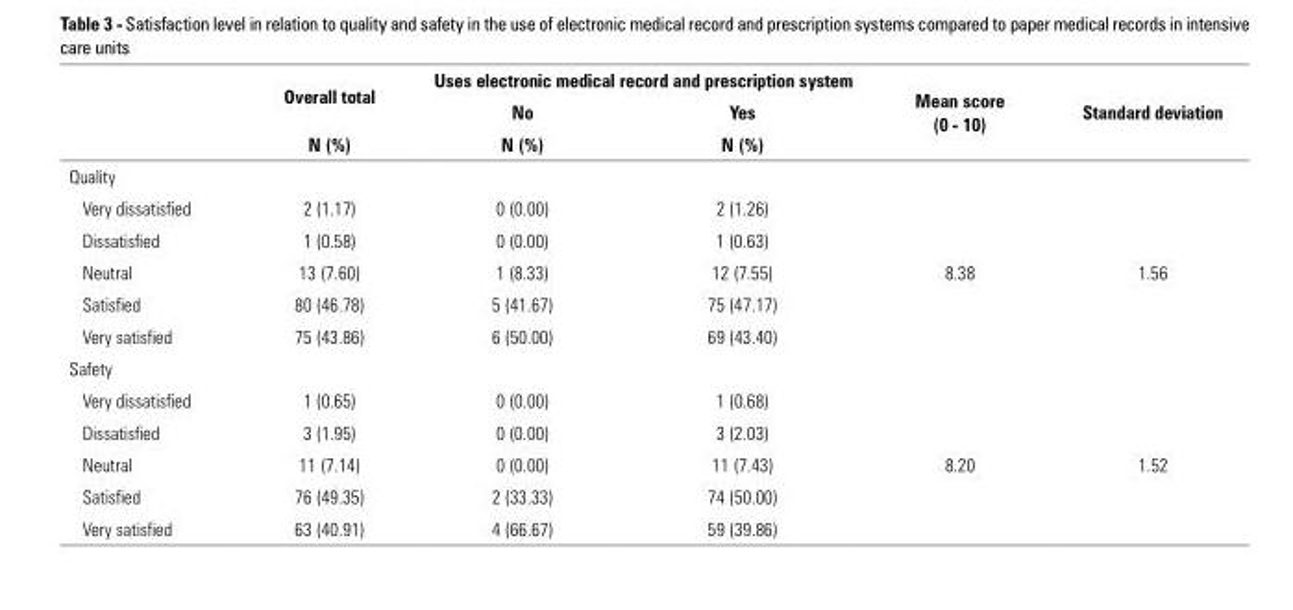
<table><thead><tr><td rowspan="3"></td><td rowspan="3">Overall total N (%)</td><td colspan="2">Uses electronic medical record and prescription system</td><td rowspan="3">Mean score (0 - 10)</td><td rowspan="3">Standard deviation</td></tr><tr><td rowspan="2">No N (%)</td><td rowspan="2">Yes N (%)</td></tr><tr></tr></thead><tbody><tr><td colspan="6">Quality</td></tr><tr><td>Very dissatisfied</td><td>2 (1.17)</td><td>0 (0.00)</td><td>2 (1.26)</td><td rowspan="5">8.38</td><td rowspan="5">1.56</td></tr><tr><td>Dissatisfied</td><td>1 (0.58)</td><td>0 (0.00)</td><td>1 (0.63)</td></tr><tr><td>Neutral</td><td>13 (7.60)</td><td>1 (8.33)</td><td>12 (7.55)</td></tr><tr><td>Satisfied</td><td>80 (46.78)</td><td>5 (41.67)</td><td>75 (47.17)</td></tr><tr><td>Very satisfied</td><td>75 (43.86)</td><td>6 (50.00)</td><td>69 (43.40)</td></tr><tr><td colspan="6">Safety</td></tr><tr><td>Very dissatisfied</td><td>1 (0.65)</td><td>0 (0.00)</td><td>1 (0.68)</td><td rowspan="5">8.20</td><td rowspan="5">1.52</td></tr><tr><td>Dissatisfied</td><td>3 (1.95)</td><td>0 (0.00)</td><td>3 (2.03)</td></tr><tr><td>Neutral</td><td>11 (7.14)</td><td>0 (0.00)</td><td>11 (7.43)</td></tr><tr><td>Satisfied</td><td>76 (49.35)</td><td>2 (33.33)</td><td>74 (50.00)</td></tr><tr><td>Very satisfied</td><td>63 (40.91)</td><td>4 (66.67)</td><td>59 (39.86)</td></tr></tbody></table>